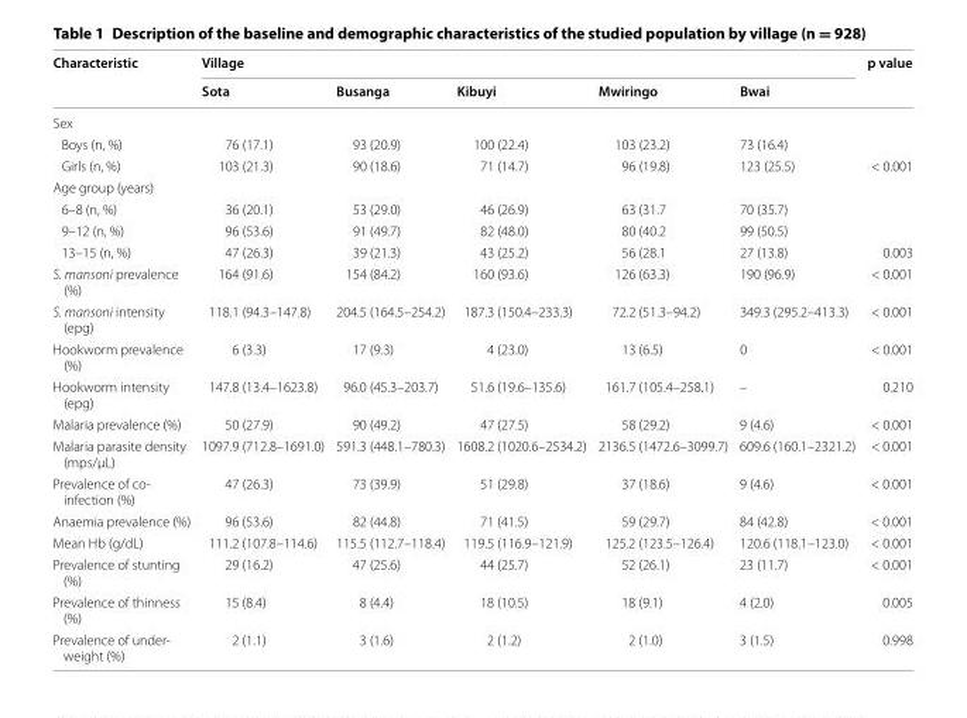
<table><thead><tr><td rowspan="2">Characteristic</td><td colspan="5">Village</td><td rowspan="2">p value</td></tr><tr><td>Sota</td><td>Busanga</td><td>Kibuyi</td><td>Mwiringo</td><td>Bwai</td></tr></thead><tbody><tr><td colspan="7">Sex</td></tr><tr><td>Boys (n, %)</td><td>76 (17.1)</td><td>93 (20.9)</td><td>100 (22.4)</td><td>103 (23.2)</td><td>73 (16.4)</td><td></td></tr><tr><td>Girls (n, %)</td><td>103 (21.3)</td><td>90 (18.6)</td><td>71 (14.7)</td><td>96 (19.8)</td><td>123 (25.5)</td><td>&lt; 0.001</td></tr><tr><td colspan="7">Age group (years)</td></tr><tr><td>6–8 (n, %)</td><td>36 (20.1)</td><td>53 (29.0)</td><td>46 (26.9)</td><td>63 (31.7</td><td>70 (35.7)</td><td></td></tr><tr><td>9–12 (n, %)</td><td>96 (53.6)</td><td>91 (49.7)</td><td>82 (48.0)</td><td>80 (40.2</td><td>99 (50.5)</td><td></td></tr><tr><td>13–15 (n, %)</td><td>47 (26.3)</td><td>39 (21.3)</td><td>43 (25.2)</td><td>56 (28.1</td><td>27 (13.8)</td><td>0.003</td></tr><tr><td>S. mansoni prevalence (%)</td><td>164 (91.6)</td><td>154 (84.2)</td><td>160 (93.6)</td><td>126 (63.3)</td><td>190 (96.9)</td><td>&lt; 0.001</td></tr><tr><td>S. mansoni intensity (epg)</td><td>118.1 (94.3–147.8)</td><td>204.5 (164.5–254.2)</td><td>187.3 (150.4–233.3)</td><td>72.2 (51.3–94.2)</td><td>349.3 (295.2–413.3)</td><td>&lt; 0.001</td></tr><tr><td>Hookworm prevalence (%)</td><td>6 (3.3)</td><td>17 (9.3)</td><td>4 (23.0)</td><td>13 (6.5)</td><td>0</td><td>&lt; 0.001</td></tr><tr><td>Hookworm intensity (epg)</td><td>147.8 (13.4–1623.8)</td><td>96.0 (45.3–203.7)</td><td>51.6 (19.6–135.6)</td><td>161.7 (105.4–258.1)</td><td>–</td><td>0.210</td></tr><tr><td>Malaria prevalence (%)</td><td>50 (27.9)</td><td>90 (49.2)</td><td>47 (27.5)</td><td>58 (29.2)</td><td>9 (4.6)</td><td>&lt; 0.001</td></tr><tr><td>Malaria parasite density (mps/µL)</td><td>1097.9 (712.8–1691.0)</td><td>591.3 (448.1–780.3)</td><td>1608.2 (1020.6–2534.2)</td><td>2136.5 (1472.6–3099.7)</td><td>609.6 (160.1–2321.2)</td><td>&lt; 0.001</td></tr><tr><td>Prevalence of co- infection (%)</td><td>47 (26.3)</td><td>73 (39.9)</td><td>51 (29.8)</td><td>37 (18.6)</td><td>9 (4.6)</td><td>&lt; 0.001</td></tr><tr><td>Anaemia prevalence (%)</td><td>96 (53.6)</td><td>82 (44.8)</td><td>71 (41.5)</td><td>59 (29.7)</td><td>84 (42.8)</td><td>&lt; 0.001</td></tr><tr><td>Mean Hb (g/dL)</td><td>111.2 (107.8–114.6)</td><td>115.5 (112.7–118.4)</td><td>119.5 (116.9–121.9)</td><td>125.2 (123.5–126.4)</td><td>120.6 (118.1–123.0)</td><td>&lt; 0.001</td></tr><tr><td>Prevalence of stunting (%)</td><td>29 (16.2)</td><td>47 (25.6)</td><td>44 (25.7)</td><td>52 (26.1)</td><td>23 (11.7)</td><td>&lt; 0.001</td></tr><tr><td>Prevalence of thinness (%)</td><td>15 (8.4)</td><td>8 (4.4)</td><td>18 (10.5)</td><td>18 (9.1)</td><td>4 (2.0)</td><td>0.005</td></tr><tr><td>Prevalence of under- weight (%)</td><td>2 (1.1)</td><td>3 (1.6)</td><td>2 (1.2)</td><td>2 (1.0)</td><td>3 (1.5)</td><td>0.998</td></tr></tbody></table>